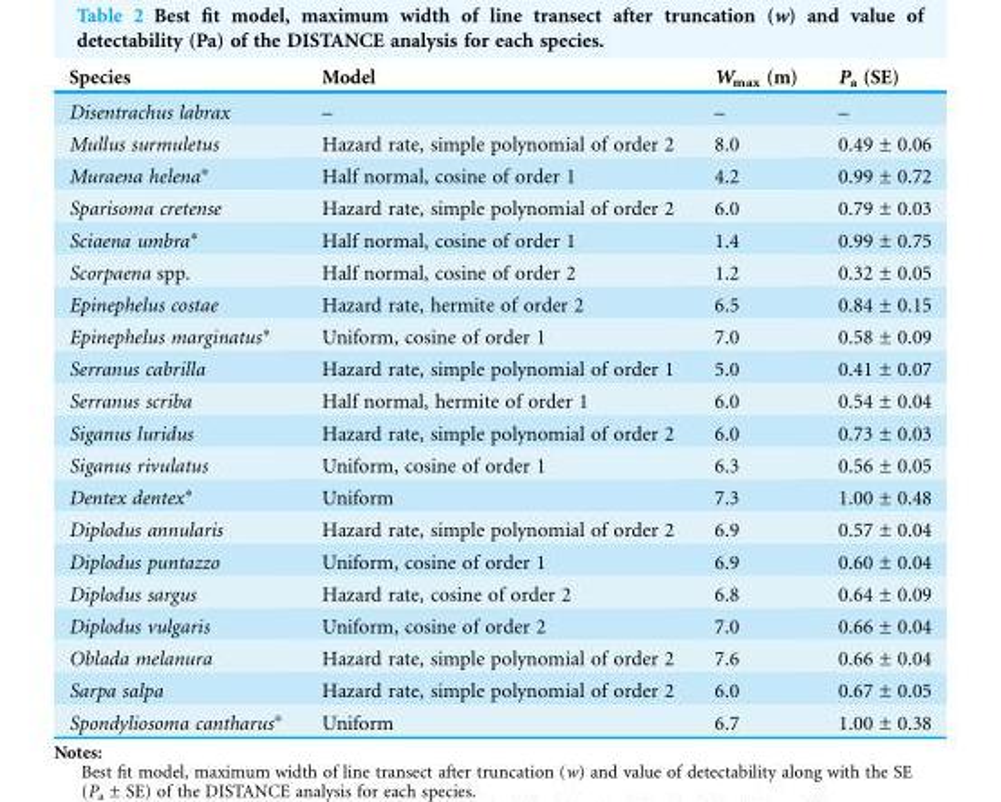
<table><thead><tr><td>Species</td><td>Model</td><td>W<sub>max</sub> (m)</td><td>P<sub>a</sub> (SE)</td></tr></thead><tbody><tr><td>Disentrachus labrax</td><td>–</td><td>–</td><td>–</td></tr><tr><td>Mullus surmuletus</td><td>Hazard rate, simple polynomial of order 2</td><td>8.0</td><td>0.49 ± 0.06</td></tr><tr><td>Muraena helena*</td><td>Half normal, cosine of order 1</td><td>4.2</td><td>0.99 ± 0.72</td></tr><tr><td>Sparisoma cretense</td><td>Hazard rate, simple polynomial of order 2</td><td>6.0</td><td>0.79 ± 0.03</td></tr><tr><td>Sciaena umbra*</td><td>Half normal, cosine of order 1</td><td>1.4</td><td>0.99 ± 0.75</td></tr><tr><td>Scorpaena spp.</td><td>Half normal, cosine of order 2</td><td>1.2</td><td>0.32 ± 0.05</td></tr><tr><td>Epinephelus costae</td><td>Hazard rate, hermite of order 2</td><td>6.5</td><td>0.84 ± 0.15</td></tr><tr><td>Epinephelus marginatus*</td><td>Uniform, cosine of order 1</td><td>7.0</td><td>0.58 ± 0.09</td></tr><tr><td>Serranus cabrilla</td><td>Hazard rate, simple polynomial of order 1</td><td>5.0</td><td>0.41 ± 0.07</td></tr><tr><td>Serranus scriba</td><td>Half normal, hermite of order 1</td><td>6.0</td><td>0.54 ± 0.04</td></tr><tr><td>Siganus luridus</td><td>Hazard rate, simple polynomial of order 2</td><td>6.0</td><td>0.73 ± 0.03</td></tr><tr><td>Siganus rivulatus</td><td>Uniform, cosine of order 1</td><td>6.3</td><td>0.56 ± 0.05</td></tr><tr><td>Dentex dentex*</td><td>Uniform</td><td>7.3</td><td>1.00 ± 0.48</td></tr><tr><td>Diplodus annularis</td><td>Hazard rate, simple polynomial of order 2</td><td>6.9</td><td>0.57 ± 0.04</td></tr><tr><td>Diplodus puntazzo</td><td>Uniform, cosine of order 1</td><td>6.9</td><td>0.60 ± 0.04</td></tr><tr><td>Diplodus sargus</td><td>Hazard rate, cosine of order 2</td><td>6.8</td><td>0.64 ± 0.09</td></tr><tr><td>Diplodus vulgaris</td><td>Uniform, cosine of order 2</td><td>7.0</td><td>0.66 ± 0.04</td></tr><tr><td>Oblada melanura</td><td>Hazard rate, simple polynomial of order 2</td><td>7.6</td><td>0.66 ± 0.04</td></tr><tr><td>Sarpa salpa</td><td>Hazard rate, simple polynomial of order 2</td><td>6.0</td><td>0.67 ± 0.05</td></tr><tr><td>Spondyliosoma cantharus*</td><td>Uniform</td><td>6.7</td><td>1.00 ± 0.38</td></tr></tbody></table>